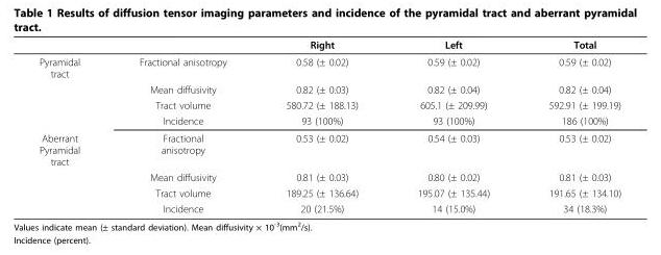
<table><thead><tr><td></td><td></td><td>Right</td><td>Left</td><td>Total</td></tr></thead><tbody><tr><td rowspan="4">Pyramidal tract</td><td>Fractional anisotropy</td><td>0.58 (± 0.02)</td><td>0.59 (± 0.02)</td><td>0.59 (± 0.02)</td></tr><tr><td>Mean diffusivity</td><td>0.82 (± 0.03)</td><td>0.82 (± 0.04)</td><td>0.82 (± 0.04)</td></tr><tr><td>Tract volume</td><td>580.72 (± 188.13)</td><td>605.1 (± 209.99)</td><td>592.91 (± 199.19)</td></tr><tr><td>Incidence</td><td>93 (100%)</td><td>93 (100%)</td><td>186 (100%)</td></tr><tr><td rowspan="4">Aberrant Pyramidal tract</td><td>Fractional anisotropy</td><td>0.53 (± 0.02)</td><td>0.54 (± 0.03)</td><td>0.53 (± 0.02)</td></tr><tr><td>Mean diffusivity</td><td>0.81 (± 0.03)</td><td>0.80 (± 0.02)</td><td>0.81 (± 0.03)</td></tr><tr><td>Tract volume</td><td>189.25 (± 136.64)</td><td>195.07 (± 135.44)</td><td>191.65 (± 134.10)</td></tr><tr><td>Incidence</td><td>20 (21.5%)</td><td>14 (15.0%)</td><td>34 (18.3%)</td></tr></tbody></table>